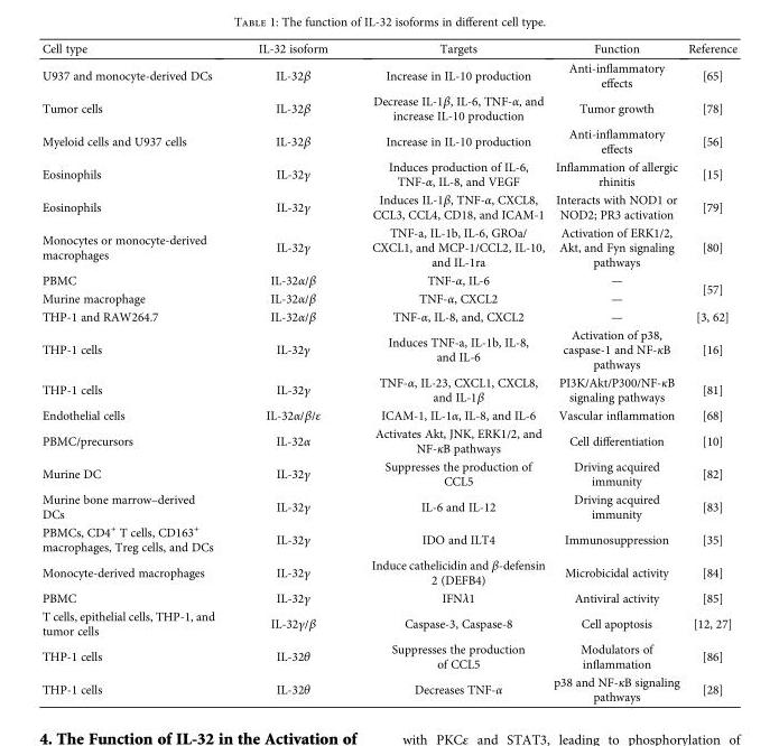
<table><thead><tr><td>Cell type</td><td>IL-32 isoform</td><td>Targets</td><td>Function</td><td>Reference</td></tr></thead><tbody><tr><td>U937 and monocyte-derived DCs</td><td>IL-32β</td><td>Increase in IL-10 production</td><td>Anti-inflammatory effects</td><td>[65]</td></tr><tr><td>Tumor cells</td><td>IL-32β</td><td>Decrease IL-1β, IL-6, TNF-α, and increase IL-10 production</td><td>Tumor growth</td><td>[78]</td></tr><tr><td>Myeloid cells and U937 cells</td><td>IL-32β</td><td>Increase in IL-10 production</td><td>Anti-inflammatory effects</td><td>[56]</td></tr><tr><td>Eosinophils</td><td>IL-32γ</td><td>Induces production of IL-6, TNF-α, IL-8, and VEGF</td><td>Inflammation of allergic rhinitis</td><td>[15]</td></tr><tr><td>Eosinophils</td><td>IL-32γ</td><td>Induces IL-1β, TNF-α, CXCL8, CCL3, CCL4, CD18, and ICAM-1</td><td>Interacts with NOD1 or NOD2; PR3 activation</td><td>[79]</td></tr><tr><td>Monocytes or monocyte-derived macrophages</td><td>IL-32γ</td><td>TNF-a, IL-1b, IL-6, GROa/ CXCL1, and MCP-1/CCL2, IL-10, and IL-1ra</td><td>Activation of ERK1/2, Akt, and Fyn signaling pathways</td><td>[80]</td></tr><tr><td>PBMC</td><td>IL-32α/β</td><td>TNF-α, IL-6</td><td>—</td><td rowspan="2">[57]</td></tr><tr><td>Murine macrophage</td><td>IL-32α/β</td><td>TNF-α, CXCL2</td><td>—</td></tr><tr><td>THP-1 and RAW264.7</td><td>IL-32α/β</td><td>TNF-α, IL-8, and, CXCL2</td><td>—</td><td>[3, 62]</td></tr><tr><td>THP-1 cells</td><td>IL-32γ</td><td>Induces TNF-a, IL-1b, IL-8, and IL-6</td><td>Activation of p38, caspase-1 and NF-κB pathways</td><td>[16]</td></tr><tr><td>THP-1 cells</td><td>IL-32γ</td><td>TNF-α, IL-23, CXCL1, CXCL8, and IL-1β</td><td>PI3K/Akt/P300/NF-κB signaling pathways</td><td>[81]</td></tr><tr><td>Endothelial cells</td><td>IL-32α/β/ε</td><td>ICAM-1, IL-1α, IL-8, and IL-6</td><td>Vascular inflammation</td><td>[68]</td></tr><tr><td>PBMC/precursors</td><td>IL-32α</td><td>Activates Akt, JNK, ERK1/2, and NF-κB pathways</td><td>Cell differentiation</td><td>[10]</td></tr><tr><td>Murine DC</td><td>IL-32γ</td><td>Suppresses the production of CCL5</td><td>Driving acquired immunity</td><td>[82]</td></tr><tr><td>Murine bone marrow–derived DCs</td><td>IL-32γ</td><td>IL-6 and IL-12</td><td>Driving acquired immunity</td><td>[83]</td></tr><tr><td>PBMCs, CD4<sup>+</sup> T cells, CD163<sup>+</sup> macrophages, Treg cells, and DCs</td><td>IL-32γ</td><td>IDO and ILT4</td><td>Immunosuppression</td><td>[35]</td></tr><tr><td>Monocyte-derived macrophages</td><td>IL-32γ</td><td>Induce cathelicidin and β-defensin 2 (DEFB4)</td><td>Microbicidal activity</td><td>[84]</td></tr><tr><td>PBMC</td><td>IL-32γ</td><td>IFNλ1</td><td>Antiviral activity</td><td>[85]</td></tr><tr><td>T cells, epithelial cells, THP-1, and tumor cells</td><td>IL-32γ/β</td><td>Caspase-3, Caspase-8</td><td>Cell apoptosis</td><td>[12, 27]</td></tr><tr><td>THP-1 cells</td><td>IL-32θ</td><td>Suppresses the production of CCL5</td><td>Modulators of inflammation</td><td>[86]</td></tr><tr><td>THP-1 cells</td><td>IL-32θ</td><td>Decreases TNF-α</td><td>p38 and NF-κB signaling pathways</td><td>[28]</td></tr></tbody></table>